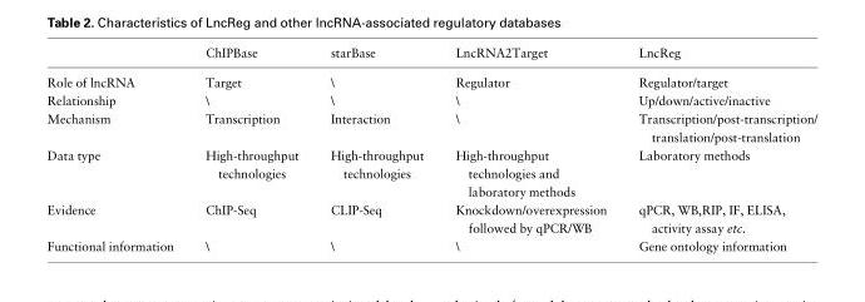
<table><thead><tr><td></td><td>ChIPBase</td><td>starBase</td><td>LncRNA2Target</td><td>LncReg</td></tr></thead><tbody><tr><td>Role of lncRNA</td><td>Target</td><td>\</td><td>Regulator</td><td>Regulator/target</td></tr><tr><td>Relationship</td><td>\</td><td>\</td><td>\</td><td>Up/down/active/inactive</td></tr><tr><td>Mechanism</td><td>Transcription</td><td>Interaction</td><td>\</td><td>Transcription/post-transcription/ translation/post-translation</td></tr><tr><td>Data type</td><td>High-throughput technologies</td><td>High-throughput technologies</td><td>High-throughput technologies and laboratory methods</td><td>Laboratory methods</td></tr><tr><td>Evidence</td><td>ChIP-Seq</td><td>CLIP-Seq</td><td>Knockdown/overexpression followed by qPCR/WB</td><td>qPCR, WB,RIP, IF, ELISA, activity assay etc.</td></tr><tr><td>Functional information</td><td>\</td><td>\</td><td>\</td><td>Gene ontology information</td></tr></tbody></table>